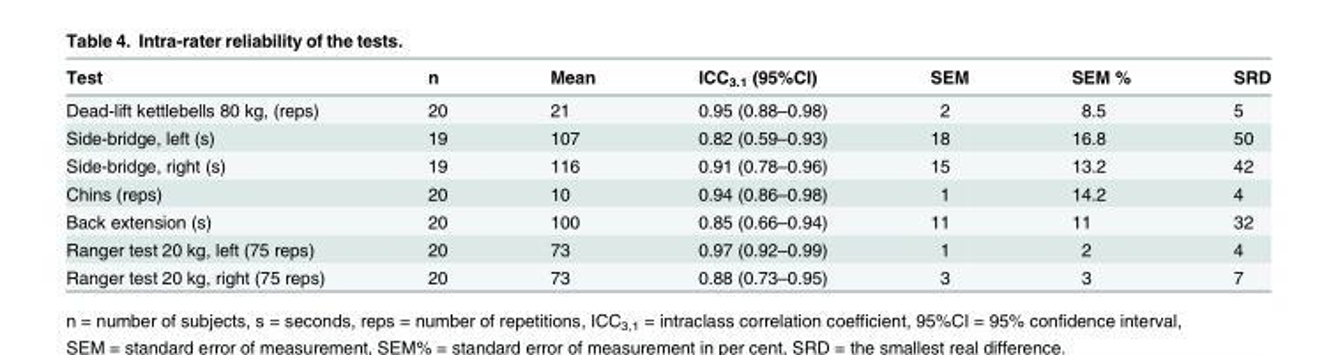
<table><thead><tr><td>Test</td><td>n</td><td>Mean</td><td>ICC<sub>3.1</sub> (95%CI)</td><td>SEM</td><td>SEM %</td><td>SRD</td></tr></thead><tbody><tr><td>Dead-lift kettlebells 80 kg, (reps)</td><td>20</td><td>21</td><td>0.95 (0.88–0.98)</td><td>2</td><td>8.5</td><td>5</td></tr><tr><td>Side-bridge, left (s)</td><td>19</td><td>107</td><td>0.82 (0.59–0.93)</td><td>18</td><td>16.8</td><td>50</td></tr><tr><td>Side-bridge, right (s)</td><td>19</td><td>116</td><td>0.91 (0.78–0.96)</td><td>15</td><td>13.2</td><td>42</td></tr><tr><td>Chins (reps)</td><td>20</td><td>10</td><td>0.94 (0.86–0.98)</td><td>1</td><td>14.2</td><td>4</td></tr><tr><td>Back extension (s)</td><td>20</td><td>100</td><td>0.85 (0.66–0.94)</td><td>11</td><td>11</td><td>32</td></tr><tr><td>Ranger test 20 kg, left (75 reps)</td><td>20</td><td>73</td><td>0.97 (0.92–0.99)</td><td>1</td><td>2</td><td>4</td></tr><tr><td>Ranger test 20 kg, right (75 reps)</td><td>20</td><td>73</td><td>0.88 (0.73–0.95)</td><td>3</td><td>3</td><td>7</td></tr></tbody></table>